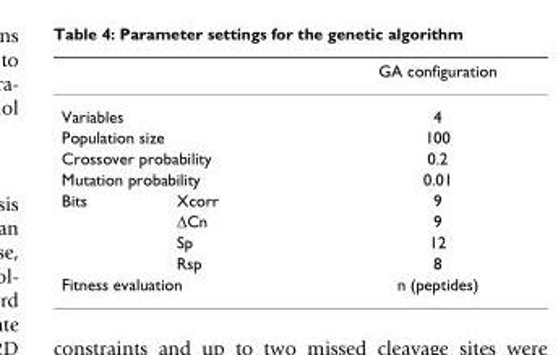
<table><thead><tr><td></td><td></td><td>GA configuration</td></tr></thead><tbody><tr><td colspan="2">Variables</td><td>4</td></tr><tr><td colspan="2">Population size</td><td>100</td></tr><tr><td colspan="2">Crossover probability</td><td>0.2</td></tr><tr><td colspan="2">Mutation probability</td><td>0.01</td></tr><tr><td rowspan="4">Bits</td><td>Xcorr</td><td>9</td></tr><tr><td>ΔCn</td><td>9</td></tr><tr><td>Sp</td><td>12</td></tr><tr><td>Rsp</td><td>8</td></tr><tr><td colspan="2">Fitness evaluation</td><td>n (peptides)</td></tr></tbody></table>